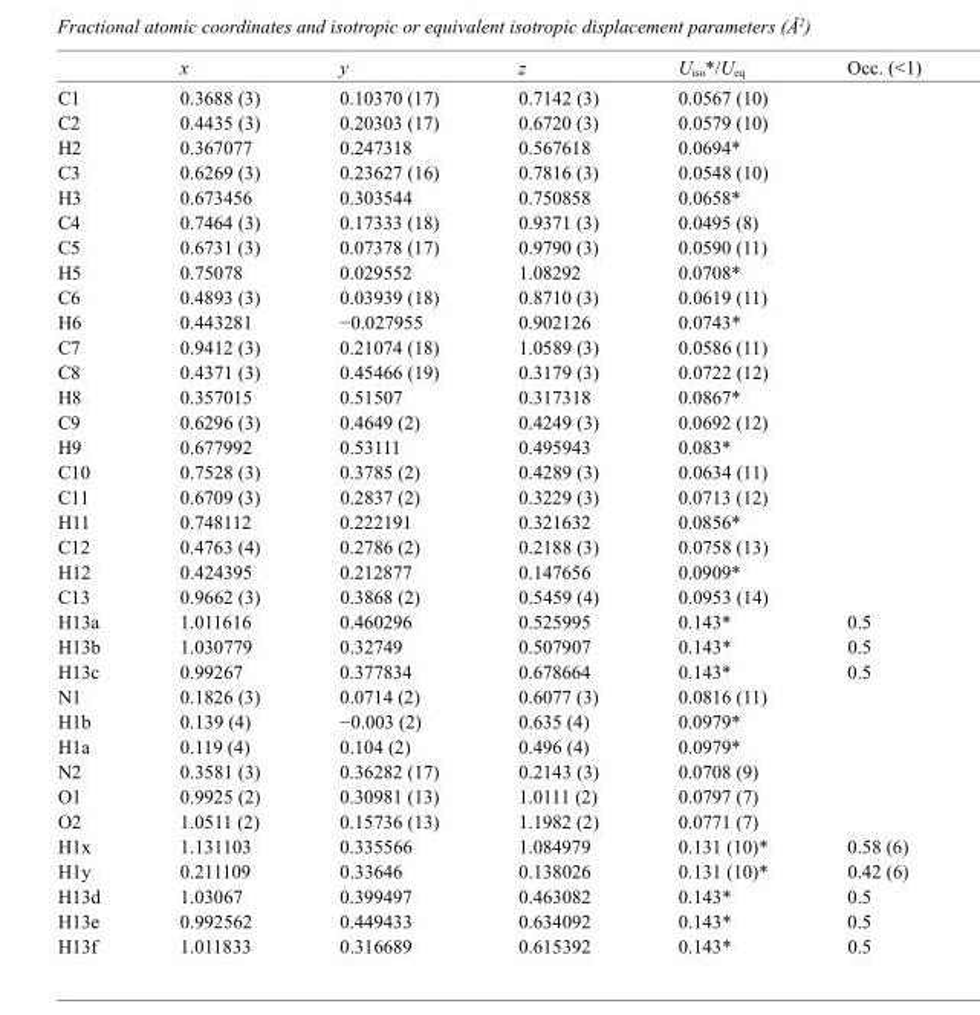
<table><thead><tr><td></td><td>x</td><td>y</td><td>z</td><td>U<sub>iso</sub>*/U<sub>eq</sub></td><td>Occ. (&lt;1)</td></tr></thead><tbody><tr><td>C1</td><td>0.3688 (3)</td><td>0.10370 (17)</td><td>0.7142 (3)</td><td>0.0567 (10)</td><td></td></tr><tr><td>C2</td><td>0.4435 (3)</td><td>0.20303 (17)</td><td>0.6720 (3)</td><td>0.0579 (10)</td><td></td></tr><tr><td>H2</td><td>0.367077</td><td>0.247318</td><td>0.567618</td><td>0.0694*</td><td></td></tr><tr><td>C3</td><td>0.6269 (3)</td><td>0.23627 (16)</td><td>0.7816 (3)</td><td>0.0548 (10)</td><td></td></tr><tr><td>H3</td><td>0.673456</td><td>0.303544</td><td>0.750858</td><td>0.0658*</td><td></td></tr><tr><td>C4</td><td>0.7464 (3)</td><td>0.17333 (18)</td><td>0.9371 (3)</td><td>0.0495 (8)</td><td></td></tr><tr><td>C5</td><td>0.6731 (3)</td><td>0.07378 (17)</td><td>0.9790 (3)</td><td>0.0590 (11)</td><td></td></tr><tr><td>H5</td><td>0.75078</td><td>0.029552</td><td>1.08292</td><td>0.0708*</td><td></td></tr><tr><td>C6</td><td>0.4893 (3)</td><td>0.03939 (18)</td><td>0.8710 (3)</td><td>0.0619 (11)</td><td></td></tr><tr><td>H6</td><td>0.443281</td><td>−0.027955</td><td>0.902126</td><td>0.0743*</td><td></td></tr><tr><td>C7</td><td>0.9412 (3)</td><td>0.21074 (18)</td><td>1.0589 (3)</td><td>0.0586 (11)</td><td></td></tr><tr><td>C8</td><td>0.4371 (3)</td><td>0.45466 (19)</td><td>0.3179 (3)</td><td>0.0722 (12)</td><td></td></tr><tr><td>H8</td><td>0.357015</td><td>0.51507</td><td>0.317318</td><td>0.0867*</td><td></td></tr><tr><td>C9</td><td>0.6296 (3)</td><td>0.4649 (2)</td><td>0.4249 (3)</td><td>0.0692 (12)</td><td></td></tr><tr><td>H9</td><td>0.677992</td><td>0.53111</td><td>0.495943</td><td>0.083*</td><td></td></tr><tr><td>C10</td><td>0.7528 (3)</td><td>0.3785 (2)</td><td>0.4289 (3)</td><td>0.0634 (11)</td><td></td></tr><tr><td>C11</td><td>0.6709 (3)</td><td>0.2837 (2)</td><td>0.3229 (3)</td><td>0.0713 (12)</td><td></td></tr><tr><td>H11</td><td>0.748112</td><td>0.222191</td><td>0.321632</td><td>0.0856*</td><td></td></tr><tr><td>C12</td><td>0.4763 (4)</td><td>0.2786 (2)</td><td>0.2188 (3)</td><td>0.0758 (13)</td><td></td></tr><tr><td>H12</td><td>0.424395</td><td>0.212877</td><td>0.147656</td><td>0.0909*</td><td></td></tr><tr><td>C13</td><td>0.9662 (3)</td><td>0.3868 (2)</td><td>0.5459 (4)</td><td>0.0953 (14)</td><td></td></tr><tr><td>H13a</td><td>1.011616</td><td>0.460296</td><td>0.525995</td><td>0.143*</td><td>0.5</td></tr><tr><td>H13b</td><td>1.030779</td><td>0.32749</td><td>0.507907</td><td>0.143*</td><td>0.5</td></tr><tr><td>H13c</td><td>0.99267</td><td>0.377834</td><td>0.678664</td><td>0.143*</td><td>0.5</td></tr><tr><td>N1</td><td>0.1826 (3)</td><td>0.0714 (2)</td><td>0.6077 (3)</td><td>0.0816 (11)</td><td></td></tr><tr><td>H1b</td><td>0.139 (4)</td><td>−0.003 (2)</td><td>0.635 (4)</td><td>0.0979*</td><td></td></tr><tr><td>H1a</td><td>0.119 (4)</td><td>0.104 (2)</td><td>0.496 (4)</td><td>0.0979*</td><td></td></tr><tr><td>N2</td><td>0.3581 (3)</td><td>0.36282 (17)</td><td>0.2143 (3)</td><td>0.0708 (9)</td><td></td></tr><tr><td>O1</td><td>0.9925 (2)</td><td>0.30981 (13)</td><td>1.0111 (2)</td><td>0.0797 (7)</td><td></td></tr><tr><td>O2</td><td>1.0511 (2)</td><td>0.15736 (13)</td><td>1.1982 (2)</td><td>0.0771 (7)</td><td></td></tr><tr><td>H1x</td><td>1.131103</td><td>0.335566</td><td>1.084979</td><td>0.131 (10)*</td><td>0.58 (6)</td></tr><tr><td>H1y</td><td>0.211109</td><td>0.33646</td><td>0.138026</td><td>0.131 (10)*</td><td>0.42 (6)</td></tr><tr><td>H13d</td><td>1.03067</td><td>0.399497</td><td>0.463082</td><td>0.143*</td><td>0.5</td></tr><tr><td>H13e</td><td>0.992562</td><td>0.449433</td><td>0.634092</td><td>0.143*</td><td>0.5</td></tr><tr><td>H13f</td><td>1.011833</td><td>0.316689</td><td>0.615392</td><td>0.143*</td><td>0.5</td></tr></tbody></table>